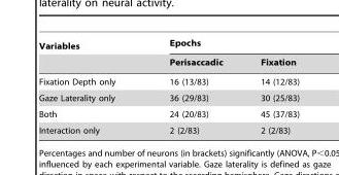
<table><thead><tr><td rowspan="2">Variables</td><td colspan="2">Epochs</td></tr><tr><td>Perisaccadic</td><td>Fixation</td></tr></thead><tbody><tr><td>Fixation Depth only</td><td>16 (13/83)</td><td>14 (12/83)</td></tr><tr><td>Gaze Laterality only</td><td>36 (29/83)</td><td>30 (25/83)</td></tr><tr><td>Both</td><td>24 (20/83)</td><td>45 (37/83)</td></tr><tr><td>Interaction only</td><td>2 (2/83)</td><td>2 (2/83)</td></tr></tbody></table>